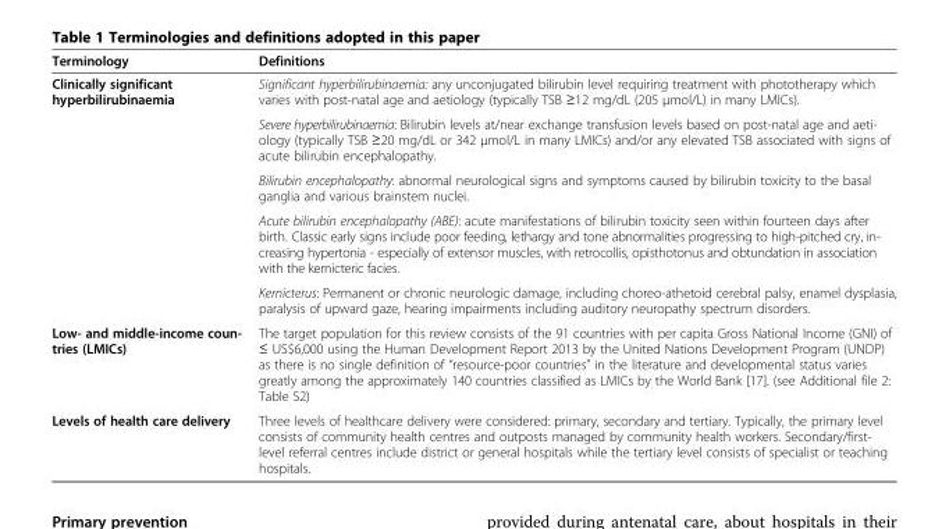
<table><thead><tr><td>Terminology</td><td>Definitions</td></tr></thead><tbody><tr><td rowspan="5">Clinically significant hyperbilirubinaemia</td><td>Significant hyperbilirubinaemia: any unconjugated bilirubin level requiring treatment with phototherapy which varies with post-natal age and aetiology (typically TSB ≥12 mg/dL (205 μmol/L) in many LMICs).</td></tr><tr><td>Severe hyperbilirubinaemia: Bilirubin levels at/near exchange transfusion levels based on post-natal age and aeti- ology (typically TSB ≥20 mg/dL or 342 μmol/L in many LMICs) and/or any elevated TSB associated with signs of acute bilirubin encephalopathy.</td></tr><tr><td>Bilirubin encephalopathy: abnormal neurological signs and symptoms caused by bilirubin toxicity to the basal ganglia and various brainstem nuclei.</td></tr><tr><td>Acute bilirubin encephalopathy (ABE): acute manifestations of bilirubin toxicity seen within fourteen days after birth. Classic early signs include poor feeding, lethargy and tone abnormalities progressing to high-pitched cry, in- creasing hypertonia - especially of extensor muscles, with retrocollis, opisthotonus and obtundation in association with the kernicteric facies.</td></tr><tr><td>Kernicterus: Permanent or chronic neurologic damage, including choreo-athetoid cerebral palsy, enamel dysplasia, paralysis of upward gaze, hearing impairments including auditory neuropathy spectrum disorders.</td></tr><tr><td>Low- and middle-income coun- tries (LMICs)</td><td>The target population for this review consists of the 91 countries with per capita Gross National Income (GNI) of ≤ US$6,000 using the Human Development Report 2013 by the United Nations Development Program (UNDP) as there is no single definition of “resource-poor countries” in the literature and developmental status varies greatly among the approximately 140 countries classified as LMICs by the World Bank [17]. (see Additional file 2: Table S2)</td></tr><tr><td>Levels of health care delivery</td><td>Three levels of healthcare delivery were considered: primary, secondary and tertiary. Typically, the primary level consists of community health centres and outposts managed by community health workers. Secondary/first- level referral centres include district or general hospitals while the tertiary level consists of specialist or teaching hospitals.</td></tr></tbody></table>